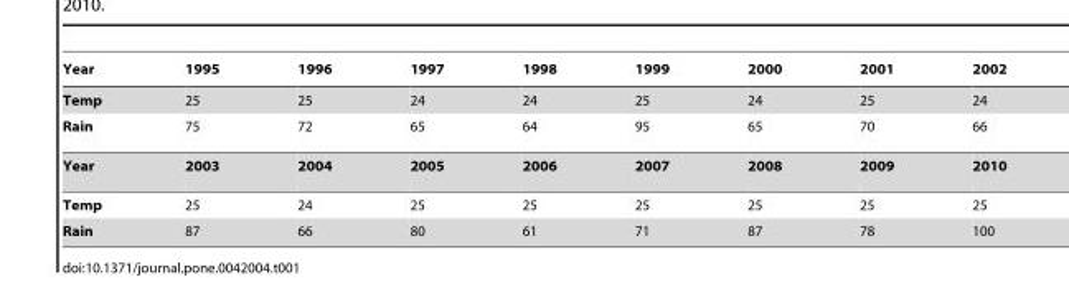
<table><thead><tr><td>Year</td><td>1995</td><td>1996</td><td>1997</td><td>1998</td><td>1999</td><td>2000</td><td>2001</td><td>2002</td></tr></thead><tbody><tr><td>Temp</td><td>25</td><td>25</td><td>24</td><td>24</td><td>25</td><td>24</td><td>25</td><td>24</td></tr><tr><td>Rain</td><td>75</td><td>72</td><td>65</td><td>64</td><td>95</td><td>65</td><td>70</td><td>66</td></tr><tr><td>Year</td><td>2003</td><td>2004</td><td>2005</td><td>2006</td><td>2007</td><td>2008</td><td>2009</td><td>2010</td></tr><tr><td>Temp</td><td>25</td><td>24</td><td>25</td><td>25</td><td>25</td><td>25</td><td>25</td><td>25</td></tr><tr><td>Rain</td><td>87</td><td>66</td><td>80</td><td>61</td><td>71</td><td>87</td><td>78</td><td>100</td></tr></tbody></table>